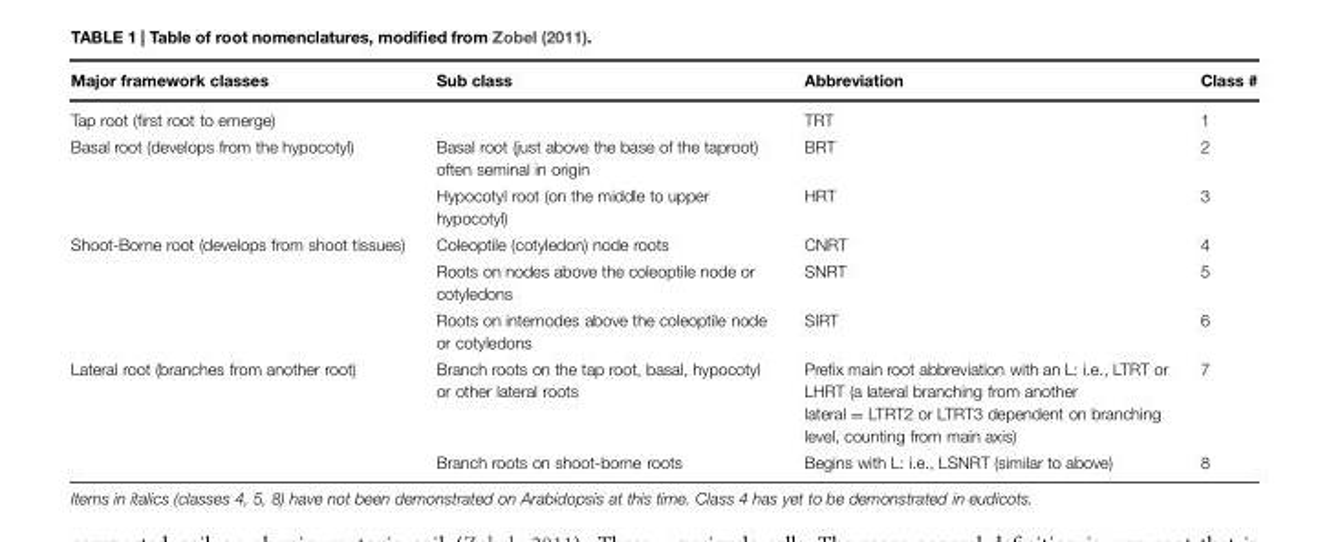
<table><thead><tr><td>Major framework classes</td><td>Sub class</td><td>Abbreviation</td><td>Class #</td></tr></thead><tbody><tr><td>Tap root (first root to emerge)</td><td></td><td>TRT</td><td>1</td></tr><tr><td rowspan="2">Basal root (develops from the hypocotyl)</td><td>Basal root (just above the base of the taproot) often seminal in origin</td><td>BRT</td><td>2</td></tr><tr><td>Hypocotyl root (on the middle to upper hypocotyl)</td><td>HRT</td><td>3</td></tr><tr><td rowspan="3">Shoot-Borne root (develops from shoot tissues)</td><td>Coleoptile (cotyledon) node roots</td><td>CNRT</td><td>4</td></tr><tr><td>Roots on nodes above the coleoptile node or cotyledons</td><td>SNRT</td><td>5</td></tr><tr><td>Roots on internodes above the coleoptile node or cotyledons</td><td>SIRT</td><td>6</td></tr><tr><td rowspan="2">Lateral root (branches from another root)</td><td>Branch roots on the tap root, basal, hypocotyl or other lateral roots</td><td>Prefix main root abbreviation with an L: i.e., LTRT or LHRT (a lateral branching from another lateral = LTRT2 or LTRT3 dependent on branching level, counting from main axis)</td><td>7</td></tr><tr><td>Branch roots on shoot-borne roots</td><td>Begins with L: i.e., LSNRT (similar to above)</td><td>8</td></tr></tbody></table>